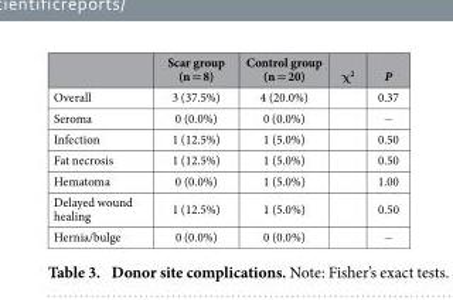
<table><thead><tr><td></td><td>Scar group (n = 8)</td><td>Control group (n = 20)</td><td>χ<sup>2</sup></td><td>P</td></tr></thead><tbody><tr><td>Overall</td><td>3 (37.5%)</td><td>4 (20.0%)</td><td></td><td>0.37</td></tr><tr><td>Seroma</td><td>0 (0.0%)</td><td>0 (0.0%)</td><td></td><td>−</td></tr><tr><td>Infection</td><td>1 (12.5%)</td><td>1 (5.0%)</td><td></td><td>0.50</td></tr><tr><td>Fat necrosis</td><td>1 (12.5%)</td><td>1 (5.0%)</td><td></td><td>0.50</td></tr><tr><td>Hematoma</td><td>0 (0.0%)</td><td>1 (5.0%)</td><td></td><td>1.00</td></tr><tr><td>Delayed wound healing</td><td>1 (12.5%)</td><td>1 (5.0%)</td><td></td><td>0.50</td></tr><tr><td>Hernia/bulge</td><td>0 (0.0%)</td><td>0 (0.0%)</td><td></td><td>−</td></tr></tbody></table>